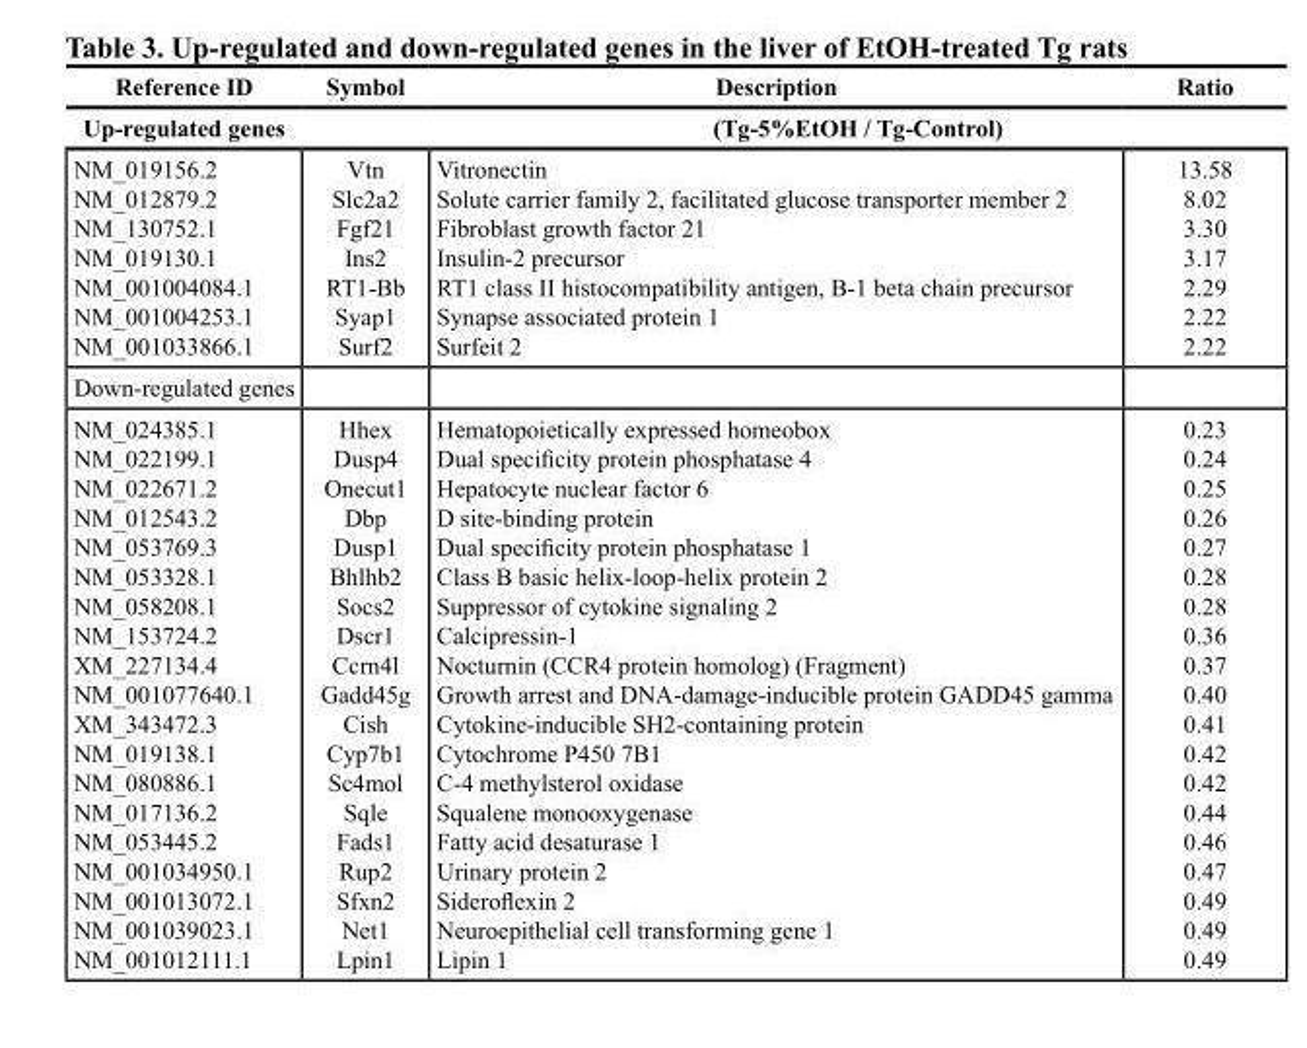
<table><thead><tr><td rowspan="2">Reference ID Up-regulated genes</td><td rowspan="2">Symbol</td><td>Description</td><td>Ratio</td></tr><tr><td colspan="2">(Tg-5%EtOH / Tg-Control)</td></tr></thead><tbody><tr><td>NM_019156.2 NM_012879.2 NM_130752.1 NM_019130.1 NM_001004084.1 NM_001004253.1 NM_001033866.1</td><td>Vtn Slc2a2 Fgf21 Ins2 RT1-Bb Syap1 Surf2</td><td>Vitronectin Solute carrier family 2, facilitated glucose transporter member 2 Fibroblast growth factor 21 Insulin-2 precursor RT1 class II histocompatibility antigen, B-1 beta chain precursor Synapse associated protein 1 Surfeit 2</td><td>13.58 8.02 3.30 3.17 2.29 2.22 2.22</td></tr><tr><td colspan="4">Down-regulated genes</td></tr><tr><td>NM_024385.1 NM_022199.1 NM_022671.2 NM_012543.2 NM_053769.3 NM_053328.1 NM_058208.1 NM_153724.2 XM_227134.4 NM_001077640.1 XM_343472.3 NM_019138.1 NM_080886.1 NM_017136.2 NM_053445.2 NM_001034950.1 NM_001013072.1 NM_001039023.1 NM_001012111.1</td><td>Hhex Dusp4 Onecut1 Dbp Dusp1 Bhlhb2 Socs2 Dscr1 Ccrn4l Gadd45g Cish Cyp7b1 Sc4mol Sqle Fads1 Rup2 Sfxn2 Net1 Lpin1</td><td>Hematopoietically expressed homeobox Dual specificity protein phosphatase 4 Hepatocyte nuclear factor 6 D site-binding protein Dual specificity protein phosphatase 1 Class B basic helix-loop-helix protein 2 Suppressor of cytokine signaling 2 Calcipressin-1 Nocturnin (CCR4 protein homolog) (Fragment) Growth arrest and DNA-damage-inducible protein GADD45 gamma Cytokine-inducible SH2-containing protein Cytochrome P450 7B1 C-4 methylsterol oxidase Squalene monooxygenase Fatty acid desaturase 1 Urinary protein 2 Sideroflexin 2 Neuroepithelial cell transforming gene 1 Lipin 1</td><td>0.23 0.24 0.25 0.26 0.27 0.28 0.28 0.36 0.37 0.40 0.41 0.42 0.42 0.44 0.46 0.47 0.49 0.49 0.49</td></tr></tbody></table>